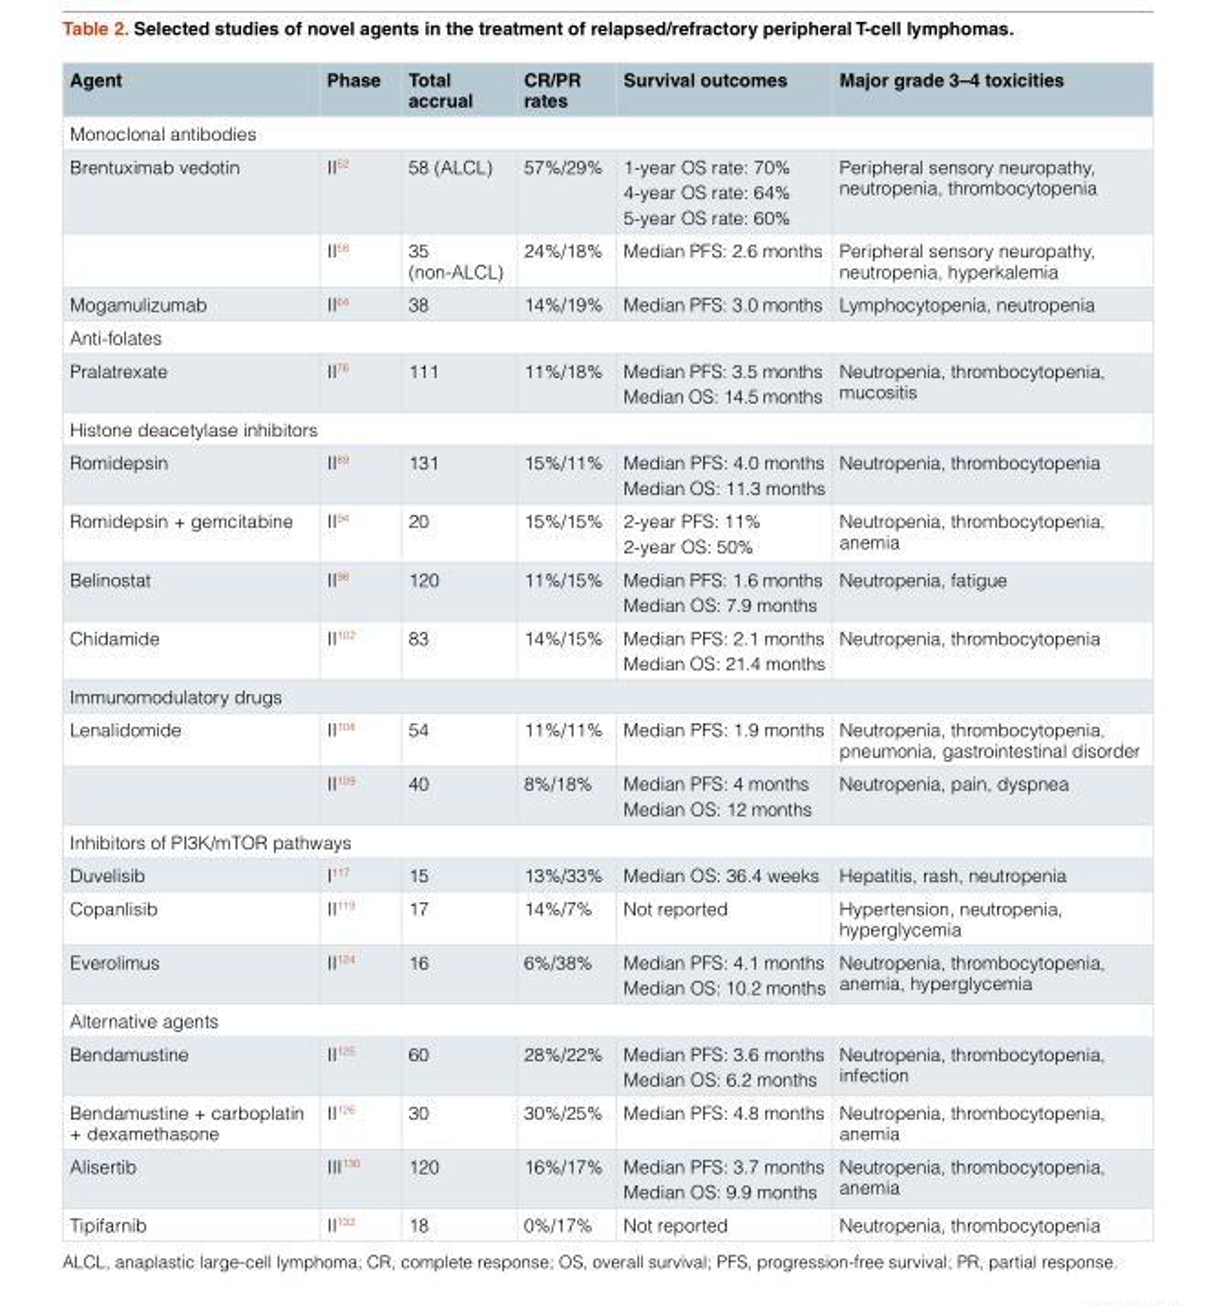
<table><thead><tr><td>Agent</td><td>Phase</td><td>Total accrual</td><td>CR/PR rates</td><td>Survival outcomes</td><td>Major grade 3–4 toxicities</td></tr></thead><tbody><tr><td colspan="6">Monoclonal antibodies</td></tr><tr><td rowspan="2">Brentuximab vedotin</td><td>II<sup>52</sup></td><td>58 (ALCL)</td><td>57%/29%</td><td>1-year OS rate: 70% 4-year OS rate: 64% 5-year OS rate: 60%</td><td>Peripheral sensory neuropathy, neutropenia, thrombocytopenia</td></tr><tr><td>II<sup>58</sup></td><td>35 (non-ALCL)</td><td>24%/18%</td><td>Median PFS: 2.6 months</td><td>Peripheral sensory neuropathy, neutropenia, hyperkalemia</td></tr><tr><td>Mogamulizumab</td><td>II<sup>64</sup></td><td>38</td><td>14%/19%</td><td>Median PFS: 3.0 months</td><td>Lymphocytopenia, neutropenia</td></tr><tr><td colspan="6">Anti-folates</td></tr><tr><td>Pralatrexate</td><td>II<sup>76</sup></td><td>111</td><td>11%/18%</td><td>Median PFS: 3.5 months Median OS: 14.5 months</td><td>Neutropenia, thrombocytopenia, mucositis</td></tr><tr><td colspan="6">Histone deacetylase inhibitors</td></tr><tr><td>Romidepsin</td><td>II<sup>89</sup></td><td>131</td><td>15%/11%</td><td>Median PFS: 4.0 months Median OS: 11.3 months</td><td>Neutropenia, thrombocytopenia</td></tr><tr><td>Romidepsin + gemcitabine</td><td>II<sup>94</sup></td><td>20</td><td>15%/15%</td><td>2-year PFS: 11% 2-year OS: 50%</td><td>Neutropenia, thrombocytopenia, anemia</td></tr><tr><td>Belinostat</td><td>II<sup>98</sup></td><td>120</td><td>11%/15%</td><td>Median PFS: 1.6 months Median OS: 7.9 months</td><td>Neutropenia, fatigue</td></tr><tr><td>Chidamide</td><td>II<sup>102</sup></td><td>83</td><td>14%/15%</td><td>Median PFS: 2.1 months Median OS: 21.4 months</td><td>Neutropenia, thrombocytopenia</td></tr><tr><td colspan="6">Immunomodulatory drugs</td></tr><tr><td rowspan="2">Lenalidomide</td><td>II<sup>108</sup></td><td>54</td><td>11%/11%</td><td>Median PFS: 1.9 months</td><td>Neutropenia, thrombocytopenia, pneumonia, gastrointestinal disorder</td></tr><tr><td>II<sup>109</sup></td><td>40</td><td>8%/18%</td><td>Median PFS: 4 months Median OS: 12 months</td><td>Neutropenia, pain, dyspnea</td></tr><tr><td colspan="6">Inhibitors of PI3K/mTOR pathways</td></tr><tr><td>Duvelisib</td><td>I<sup>117</sup></td><td>15</td><td>13%/33%</td><td>Median OS: 36.4 weeks</td><td>Hepatitis, rash, neutropenia</td></tr><tr><td>Copanlisib</td><td>II<sup>119</sup></td><td>17</td><td>14%/7%</td><td>Not reported</td><td>Hypertension, neutropenia, hyperglycemia</td></tr><tr><td>Everolimus</td><td>II<sup>124</sup></td><td>16</td><td>6%/38%</td><td>Median PFS: 4.1 months Median OS: 10.2 months</td><td>Neutropenia, thrombocytopenia, anemia, hyperglycemia</td></tr><tr><td colspan="6">Alternative agents</td></tr><tr><td>Bendamustine</td><td>II<sup>125</sup></td><td>60</td><td>28%/22%</td><td>Median PFS: 3.6 months Median OS: 6.2 months</td><td>Neutropenia, thrombocytopenia, infection</td></tr><tr><td>Bendamustine + carboplatin + dexamethasone</td><td>II<sup>126</sup></td><td>30</td><td>30%/25%</td><td>Median PFS: 4.8 months</td><td>Neutropenia, thrombocytopenia, anemia</td></tr><tr><td>Alisertib</td><td>III<sup>130</sup></td><td>120</td><td>16%/17%</td><td>Median PFS: 3.7 months Median OS: 9.9 months</td><td>Neutropenia, thrombocytopenia, anemia</td></tr><tr><td>Tipifarnib</td><td>II<sup>132</sup></td><td>18</td><td>0%/17%</td><td>Not reported</td><td>Neutropenia, thrombocytopenia</td></tr></tbody></table>